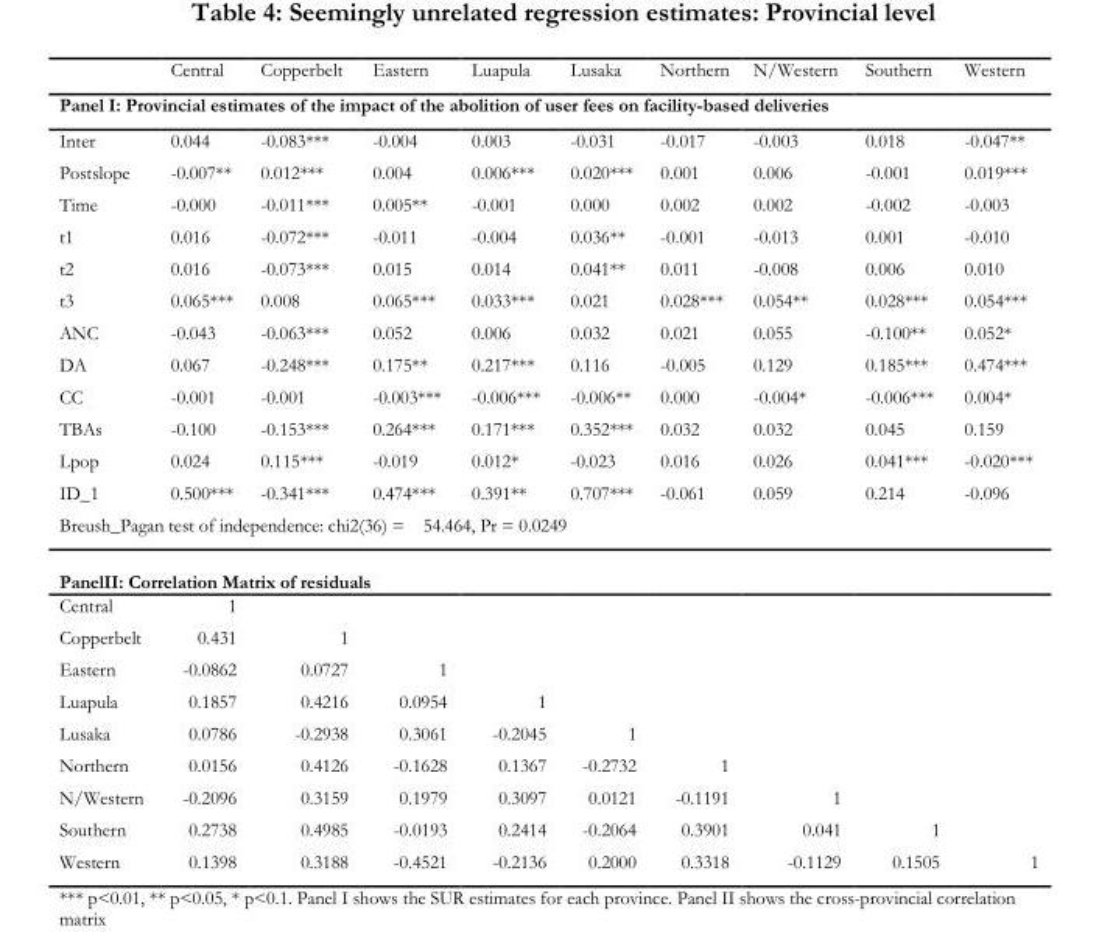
<table><thead><tr><td></td><td>Central</td><td>Copperbelt</td><td>Eastern</td><td>Luapula</td><td>Lusaka</td><td>Northern</td><td>N/Western</td><td>Southern</td><td>Western</td></tr></thead><tbody><tr><td colspan="10">Panel I: Provincial estimates of the impact of the abolition of user fees on facility-based deliveries</td></tr><tr><td>Inter</td><td>0.044</td><td>-0.083***</td><td>-0.004</td><td>0.003</td><td>-0.031</td><td>-0.017</td><td>-0.003</td><td>0.018</td><td>-0.047**</td></tr><tr><td>Postslope</td><td>-0.007**</td><td>0.012***</td><td>0.004</td><td>0.006***</td><td>0.020***</td><td>0.001</td><td>0.006</td><td>-0.001</td><td>0.019***</td></tr><tr><td>Time</td><td>-0.000</td><td>-0.011***</td><td>0.005**</td><td>-0.001</td><td>0.000</td><td>0.002</td><td>0.002</td><td>-0.002</td><td>-0.003</td></tr><tr><td>t1</td><td>0.016</td><td>-0.072***</td><td>-0.011</td><td>-0.004</td><td>0.036**</td><td>-0.001</td><td>-0.013</td><td>0.001</td><td>-0.010</td></tr><tr><td>t2</td><td>0.016</td><td>-0.073***</td><td>0.015</td><td>0.014</td><td>0.041**</td><td>0.011</td><td>-0.008</td><td>0.006</td><td>0.010</td></tr><tr><td>t3</td><td>0.065***</td><td>0.008</td><td>0.065***</td><td>0.033***</td><td>0.021</td><td>0.028***</td><td>0.054**</td><td>0.028***</td><td>0.054***</td></tr><tr><td>ANC</td><td>-0.043</td><td>-0.063***</td><td>0.052</td><td>0.006</td><td>0.032</td><td>0.021</td><td>0.055</td><td>-0.100**</td><td>0.052*</td></tr><tr><td>DA</td><td>0.067</td><td>-0.248***</td><td>0.175**</td><td>0.217***</td><td>0.116</td><td>-0.005</td><td>0.129</td><td>0.185***</td><td>0.474***</td></tr><tr><td>CC</td><td>-0.001</td><td>-0.001</td><td>-0.003***</td><td>-0.006***</td><td>-0.006**</td><td>0.000</td><td>-0.004*</td><td>-0.006***</td><td>0.004*</td></tr><tr><td>TBAs</td><td>-0.100</td><td>-0.153***</td><td>0.264***</td><td>0.171***</td><td>0.352***</td><td>0.032</td><td>0.032</td><td>0.045</td><td>0.159</td></tr><tr><td>Lpop</td><td>0.024</td><td>0.115***</td><td>-0.019</td><td>0.012*</td><td>-0.023</td><td>0.016</td><td>0.026</td><td>0.041***</td><td>-0.020***</td></tr><tr><td>ID_1</td><td>0.500***</td><td>-0.341***</td><td>0.474***</td><td>0.391**</td><td>0.707***</td><td>-0.061</td><td>0.059</td><td>0.214</td><td>-0.096</td></tr><tr><td colspan="10">Breush_Pagan test of independence: chi2(36) = 54.464, Pr = 0.0249</td></tr><tr><td colspan="10">PanelII: Correlation Matrix of residuals</td></tr><tr><td>Central</td><td>1</td><td></td><td></td><td></td><td></td><td></td><td></td><td></td><td></td></tr><tr><td>Copperbelt</td><td>0.431</td><td>1</td><td></td><td></td><td></td><td></td><td></td><td></td><td></td></tr><tr><td>Eastern</td><td>-0.0862</td><td>0.0727</td><td>1</td><td></td><td></td><td></td><td></td><td></td><td></td></tr><tr><td>Luapula</td><td>0.1857</td><td>0.4216</td><td>0.0954</td><td>1</td><td></td><td></td><td></td><td></td><td></td></tr><tr><td>Lusaka</td><td>0.0786</td><td>-0.2938</td><td>0.3061</td><td>-0.2045</td><td>1</td><td></td><td></td><td></td><td></td></tr><tr><td>Northern</td><td>0.0156</td><td>0.4126</td><td>-0.1628</td><td>0.1367</td><td>-0.2732</td><td>1</td><td></td><td></td><td></td></tr><tr><td>N/Western</td><td>-0.2096</td><td>0.3159</td><td>0.1979</td><td>0.3097</td><td>0.0121</td><td>-0.1191</td><td>1</td><td></td><td></td></tr><tr><td>Southern</td><td>0.2738</td><td>0.4985</td><td>-0.0193</td><td>0.2414</td><td>-0.2064</td><td>0.3901</td><td>0.041</td><td>1</td><td></td></tr><tr><td>Western</td><td>0.1398</td><td>0.3188</td><td>-0.4521</td><td>-0.2136</td><td>0.2000</td><td>0.3318</td><td>-0.1129</td><td>0.1505</td><td>1</td></tr></tbody></table>